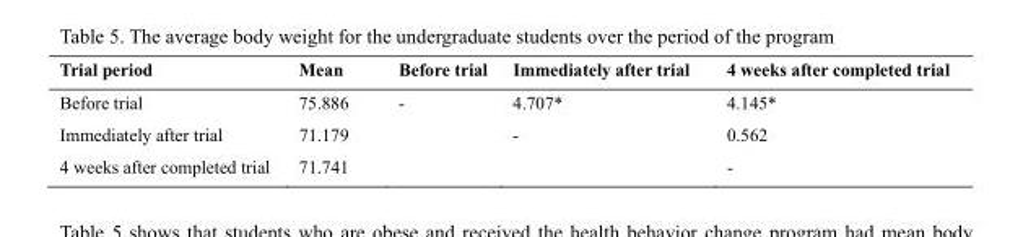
<table><thead><tr><td>Trial period</td><td>Mean</td><td>Before trial</td><td>Immediately after trial</td><td>4 weeks after completed trial</td></tr></thead><tbody><tr><td>Before trial</td><td>75.886</td><td>-</td><td>4.707*</td><td>4.145*</td></tr><tr><td>Immediately after trial</td><td>71.179</td><td></td><td>-</td><td>0.562</td></tr><tr><td>4 weeks after completed trial</td><td>71.741</td><td></td><td></td><td>-</td></tr></tbody></table>